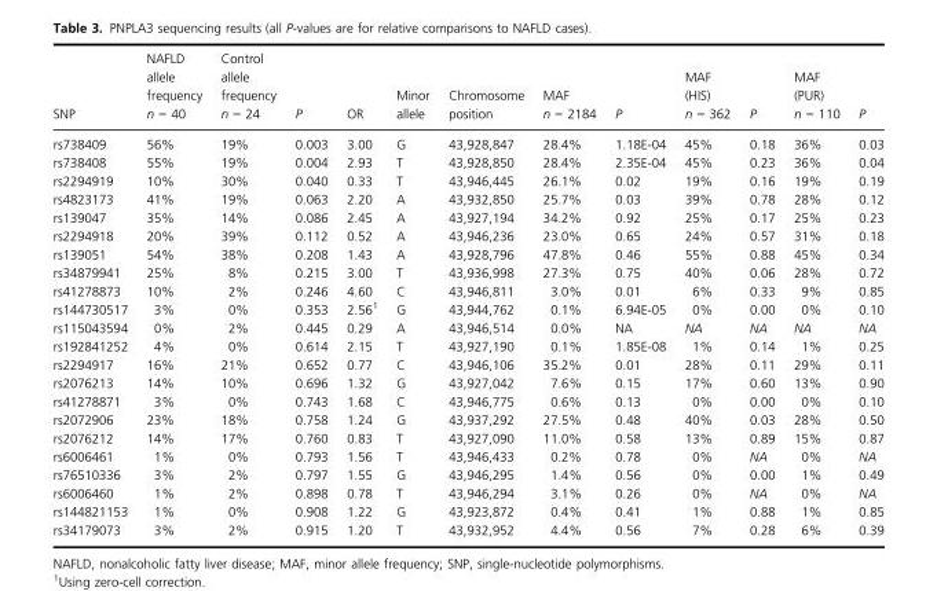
<table><thead><tr><td>SNP</td><td>NAFLD allele frequency n = 40</td><td>Control allele frequency n = 24</td><td>P</td><td>OR</td><td>Minor allele</td><td>Chromosome position</td><td>MAF n = 2184</td><td>P</td><td>MAF (HIS) n = 362</td><td>P</td><td>MAF (PUR) n = 110</td><td>P</td></tr></thead><tbody><tr><td>rs738409</td><td>56%</td><td>19%</td><td>0.003</td><td>3.00</td><td>G</td><td>43,928,847</td><td>28.4%</td><td>1.18E-04</td><td>45%</td><td>0.18</td><td>36%</td><td>0.03</td></tr><tr><td>rs738408</td><td>55%</td><td>19%</td><td>0.004</td><td>2.93</td><td>T</td><td>43,928,850</td><td>28.4%</td><td>2.35E-04</td><td>45%</td><td>0.23</td><td>36%</td><td>0.04</td></tr><tr><td>rs2294919</td><td>10%</td><td>30%</td><td>0.040</td><td>0.33</td><td>T</td><td>43,946,445</td><td>26.1%</td><td>0.02</td><td>19%</td><td>0.16</td><td>19%</td><td>0.19</td></tr><tr><td>rs4823173</td><td>41%</td><td>19%</td><td>0.063</td><td>2.20</td><td>A</td><td>43,932,850</td><td>25.7%</td><td>0.03</td><td>39%</td><td>0.78</td><td>28%</td><td>0.12</td></tr><tr><td>rs139047</td><td>35%</td><td>14%</td><td>0.086</td><td>2.45</td><td>A</td><td>43,927,194</td><td>34.2%</td><td>0.92</td><td>25%</td><td>0.17</td><td>25%</td><td>0.23</td></tr><tr><td>rs2294918</td><td>20%</td><td>39%</td><td>0.112</td><td>0.52</td><td>A</td><td>43,946,236</td><td>23.0%</td><td>0.65</td><td>24%</td><td>0.57</td><td>31%</td><td>0.18</td></tr><tr><td>rs139051</td><td>54%</td><td>38%</td><td>0.208</td><td>1.43</td><td>A</td><td>43,928,796</td><td>47.8%</td><td>0.46</td><td>55%</td><td>0.88</td><td>45%</td><td>0.34</td></tr><tr><td>rs34879941</td><td>25%</td><td>8%</td><td>0.215</td><td>3.00</td><td>T</td><td>43,936,998</td><td>27.3%</td><td>0.75</td><td>40%</td><td>0.06</td><td>28%</td><td>0.72</td></tr><tr><td>rs41278873</td><td>10%</td><td>2%</td><td>0.246</td><td>4.60</td><td>C</td><td>43,946,811</td><td>3.0%</td><td>0.01</td><td>6%</td><td>0.33</td><td>9%</td><td>0.85</td></tr><tr><td>rs144730517</td><td>3%</td><td>0%</td><td>0.353</td><td>2.561</td><td>G</td><td>43,944,762</td><td>0.1%</td><td>6.94E-05</td><td>0%</td><td>0.00</td><td>0%</td><td>0.10</td></tr><tr><td>rs115043594</td><td>0%</td><td>2%</td><td>0.445</td><td>0.29</td><td>A</td><td>43,946,514</td><td>0.0%</td><td>NA</td><td>NA</td><td>NA</td><td>NA</td><td>NA</td></tr><tr><td>rs192841252</td><td>4%</td><td>0%</td><td>0.614</td><td>2.15</td><td>T</td><td>43,927,190</td><td>0.1%</td><td>1.85E-08</td><td>1%</td><td>0.14</td><td>1%</td><td>0.25</td></tr><tr><td>rs2294917</td><td>16%</td><td>21%</td><td>0.652</td><td>0.77</td><td>C</td><td>43,946,106</td><td>35.2%</td><td>0.01</td><td>28%</td><td>0.11</td><td>29%</td><td>0.11</td></tr><tr><td>rs2076213</td><td>14%</td><td>10%</td><td>0.696</td><td>1.32</td><td>G</td><td>43,927,042</td><td>7.6%</td><td>0.15</td><td>17%</td><td>0.60</td><td>13%</td><td>0.90</td></tr><tr><td>rs41278871</td><td>3%</td><td>0%</td><td>0.743</td><td>1.68</td><td>C</td><td>43,946,775</td><td>0.6%</td><td>0.13</td><td>0%</td><td>0.00</td><td>0%</td><td>0.10</td></tr><tr><td>rs2072906</td><td>23%</td><td>18%</td><td>0.758</td><td>1.24</td><td>G</td><td>43,937,292</td><td>27.5%</td><td>0.48</td><td>40%</td><td>0.03</td><td>28%</td><td>0.50</td></tr><tr><td>rs2076212</td><td>14%</td><td>17%</td><td>0.760</td><td>0.83</td><td>T</td><td>43,927,090</td><td>11.0%</td><td>0.58</td><td>13%</td><td>0.89</td><td>15%</td><td>0.87</td></tr><tr><td>rs6006461</td><td>1%</td><td>0%</td><td>0.793</td><td>1.56</td><td>T</td><td>43,946,433</td><td>0.2%</td><td>0.78</td><td>0%</td><td>NA</td><td>0%</td><td>NA</td></tr><tr><td>rs76510336</td><td>3%</td><td>2%</td><td>0.797</td><td>1.55</td><td>G</td><td>43,946,295</td><td>1.4%</td><td>0.56</td><td>0%</td><td>0.00</td><td>1%</td><td>0.49</td></tr><tr><td>rs6006460</td><td>1%</td><td>2%</td><td>0.898</td><td>0.78</td><td>T</td><td>43,946,294</td><td>3.1%</td><td>0.26</td><td>0%</td><td>NA</td><td>0%</td><td>NA</td></tr><tr><td>rs144821153</td><td>1%</td><td>0%</td><td>0.908</td><td>1.22</td><td>G</td><td>43,923,872</td><td>0.4%</td><td>0.41</td><td>1%</td><td>0.88</td><td>1%</td><td>0.85</td></tr><tr><td>rs34179073</td><td>3%</td><td>2%</td><td>0.915</td><td>1.20</td><td>T</td><td>43,932,952</td><td>4.4%</td><td>0.56</td><td>7%</td><td>0.28</td><td>6%</td><td>0.39</td></tr></tbody></table>